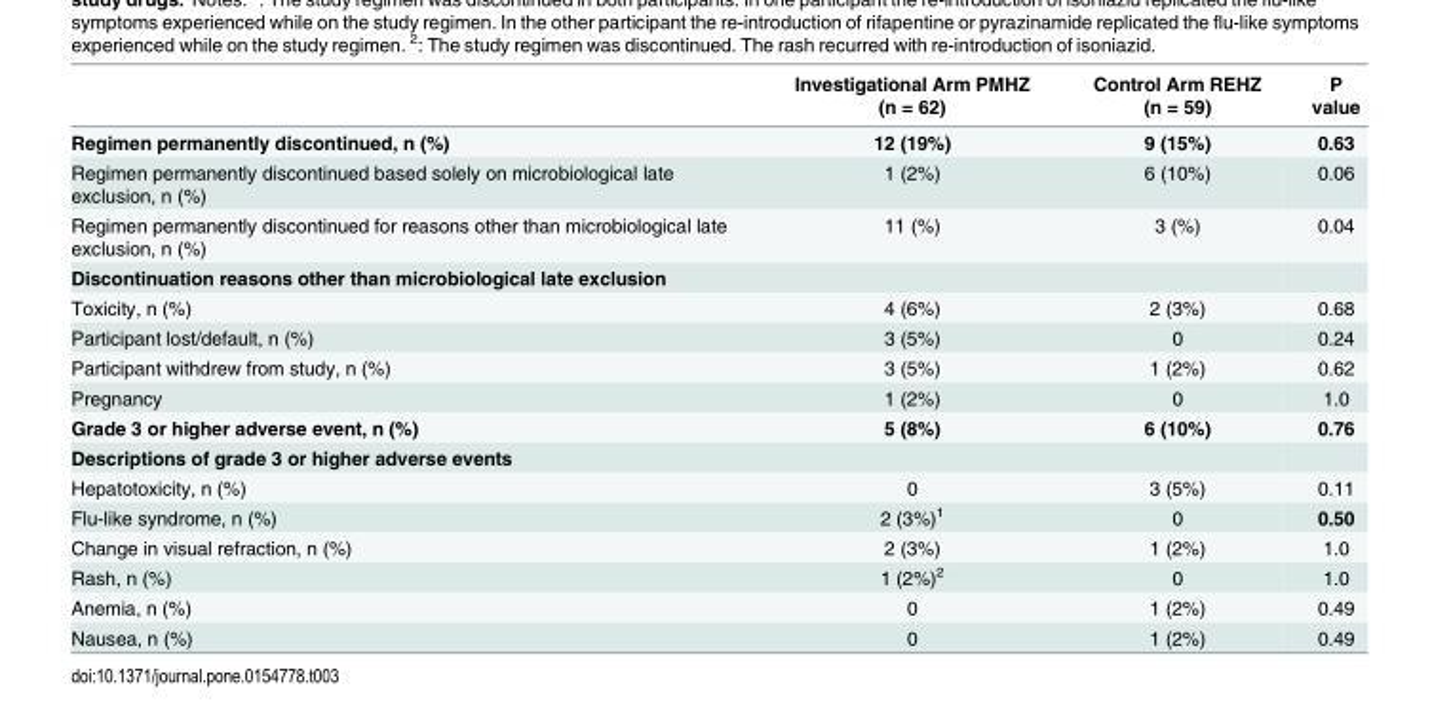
<table><thead><tr><td></td><td>Investigational Arm PMHZ (n = 62)</td><td>Control Arm REHZ (n = 59)</td><td>P value</td></tr></thead><tbody><tr><td>Regimen permanently discontinued, n (%)</td><td>12 (19%)</td><td>9 (15%)</td><td>0.63</td></tr><tr><td>Regimen permanently discontinued based solely on microbiological late exclusion, n (%)</td><td>1 (2%)</td><td>6 (10%)</td><td>0.06</td></tr><tr><td>Regimen permanently discontinued for reasons other than microbiological late exclusion, n (%)</td><td>11 (%)</td><td>3 (%)</td><td>0.04</td></tr><tr><td colspan="4">Discontinuation reasons other than microbiological late exclusion</td></tr><tr><td>Toxicity, n (%)</td><td>4 (6%)</td><td>2 (3%)</td><td>0.68</td></tr><tr><td>Participant lost/default, n (%)</td><td>3 (5%)</td><td>0</td><td>0.24</td></tr><tr><td>Participant withdrew from study, n (%)</td><td>3 (5%)</td><td>1 (2%)</td><td>0.62</td></tr><tr><td>Pregnancy</td><td>1 (2%)</td><td>0</td><td>1.0</td></tr><tr><td>Grade 3 or higher adverse event, n (%)</td><td>5 (8%)</td><td>6 (10%)</td><td>0.76</td></tr><tr><td colspan="4">Descriptions of grade 3 or higher adverse events</td></tr><tr><td>Hepatotoxicity, n (%)</td><td>0</td><td>3 (5%)</td><td>0.11</td></tr><tr><td>Flu-like syndrome, n (%)</td><td>2 (3%)<sup>1</sup></td><td>0</td><td>0.50</td></tr><tr><td>Change in visual refraction, n (%)</td><td>2 (3%)</td><td>1 (2%)</td><td>1.0</td></tr><tr><td>Rash, n (%)</td><td>1 (2%)<sup>2</sup></td><td>0</td><td>1.0</td></tr><tr><td>Anemia, n (%)</td><td>0</td><td>1 (2%)</td><td>0.49</td></tr><tr><td>Nausea, n (%)</td><td>0</td><td>1 (2%)</td><td>0.49</td></tr></tbody></table>